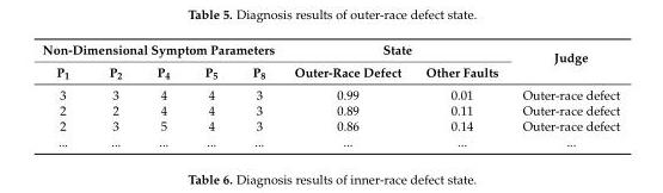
<table><thead><tr><td colspan="5">Non-Dimensional Symptom Parameters</td><td colspan="2">State</td><td rowspan="2">Judge</td></tr><tr><td>P<sub>1</sub></td><td>P<sub>2</sub></td><td>P<sub>4</sub></td><td>P<sub>5</sub></td><td>P<sub>8</sub></td><td>Outer-Race Defect</td><td>Other Faults</td></tr></thead><tbody><tr><td>3</td><td>3</td><td>4</td><td>4</td><td>3</td><td>0.99</td><td>0.01</td><td>Outer-race defect</td></tr><tr><td>2</td><td>2</td><td>4</td><td>4</td><td>3</td><td>0.89</td><td>0.11</td><td>Outer-race defect</td></tr><tr><td>2</td><td>3</td><td>5</td><td>4</td><td>3</td><td>0.86</td><td>0.14</td><td>Outer-race defect</td></tr><tr><td>...</td><td>...</td><td>...</td><td>...</td><td>...</td><td>...</td><td>...</td><td>...</td></tr></tbody></table>